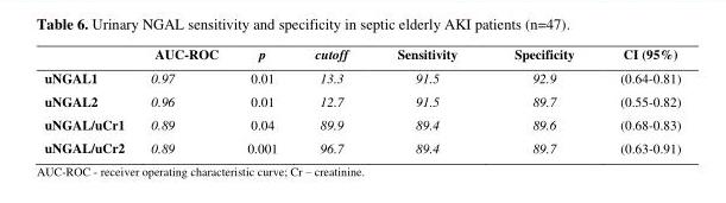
<table><thead><tr><td></td><td>AUC-ROC</td><td>p</td><td>cutoff</td><td>Sensitivity</td><td>Specificity</td><td>CI (95%)</td></tr></thead><tbody><tr><td>uNGAL1</td><td>0.97</td><td>0.01</td><td>13.3</td><td>91.5</td><td>92.9</td><td>(0.64-0.81)</td></tr><tr><td>uNGAL2</td><td>0.96</td><td>0.01</td><td>12.7</td><td>91.5</td><td>89.7</td><td>(0.55-0.82)</td></tr><tr><td>uNGAL/uCr1</td><td>0.89</td><td>0.04</td><td>89.9</td><td>89.4</td><td>89.6</td><td>(0.68-0.83)</td></tr><tr><td>uNGAL/uCr2</td><td>0.89</td><td>0.001</td><td>96.7</td><td>89.4</td><td>89.7</td><td>(0.63-0.91)</td></tr></tbody></table>